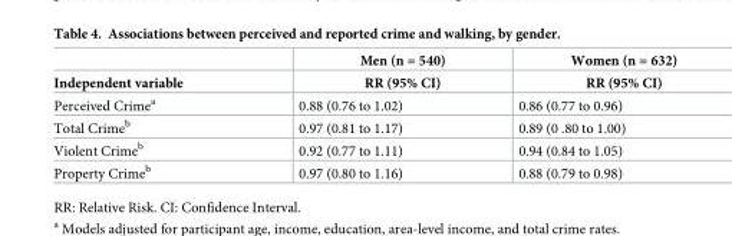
<table><thead><tr><td rowspan="2">Independent variable</td><td rowspan="2">Men (n = 540) RR (95% CI)</td><td rowspan="2">Women (n = 632) RR (95% CI)</td></tr><tr></tr></thead><tbody><tr><td>Perceived Crime<sup>a</sup></td><td>0.88 (0.76 to 1.02)</td><td>0.86 (0.77 to 0.96)</td></tr><tr><td>Total Crime<sup>b</sup></td><td>0.97 (0.81 to 1.17)</td><td>0.89 (0 .80 to 1.00)</td></tr><tr><td>Violent Crime<sup>b</sup></td><td>0.92 (0.77 to 1.11)</td><td>0.94 (0.84 to 1.05)</td></tr><tr><td>Property Crime<sup>b</sup></td><td>0.97 (0.80 to 1.16)</td><td>0.88 (0.79 to 0.98)</td></tr></tbody></table>